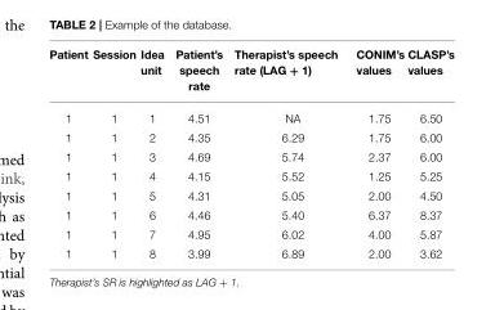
<table><thead><tr><td>Patient</td><td>Session</td><td>Idea unit</td><td>Patient’s speech rate</td><td>Therapist’s speech rate (LAG + 1)</td><td>CONIM’s values</td><td>CLASP’s values</td></tr></thead><tbody><tr><td>1</td><td>1</td><td>1</td><td>4.51</td><td>NA</td><td>1.75</td><td>6.50</td></tr><tr><td>1</td><td>1</td><td>2</td><td>4.35</td><td>6.29</td><td>1.75</td><td>6.00</td></tr><tr><td>1</td><td>1</td><td>3</td><td>4.69</td><td>5.74</td><td>2.37</td><td>6.00</td></tr><tr><td>1</td><td>1</td><td>4</td><td>4.15</td><td>5.52</td><td>1.25</td><td>5.25</td></tr><tr><td>1</td><td>1</td><td>5</td><td>4.31</td><td>5.05</td><td>2.00</td><td>4.50</td></tr><tr><td>1</td><td>1</td><td>6</td><td>4.46</td><td>5.40</td><td>6.37</td><td>8.37</td></tr><tr><td>1</td><td>1</td><td>7</td><td>4.95</td><td>6.02</td><td>4.00</td><td>5.87</td></tr><tr><td>1</td><td>1</td><td>8</td><td>3.99</td><td>6.89</td><td>2.00</td><td>3.62</td></tr></tbody></table>